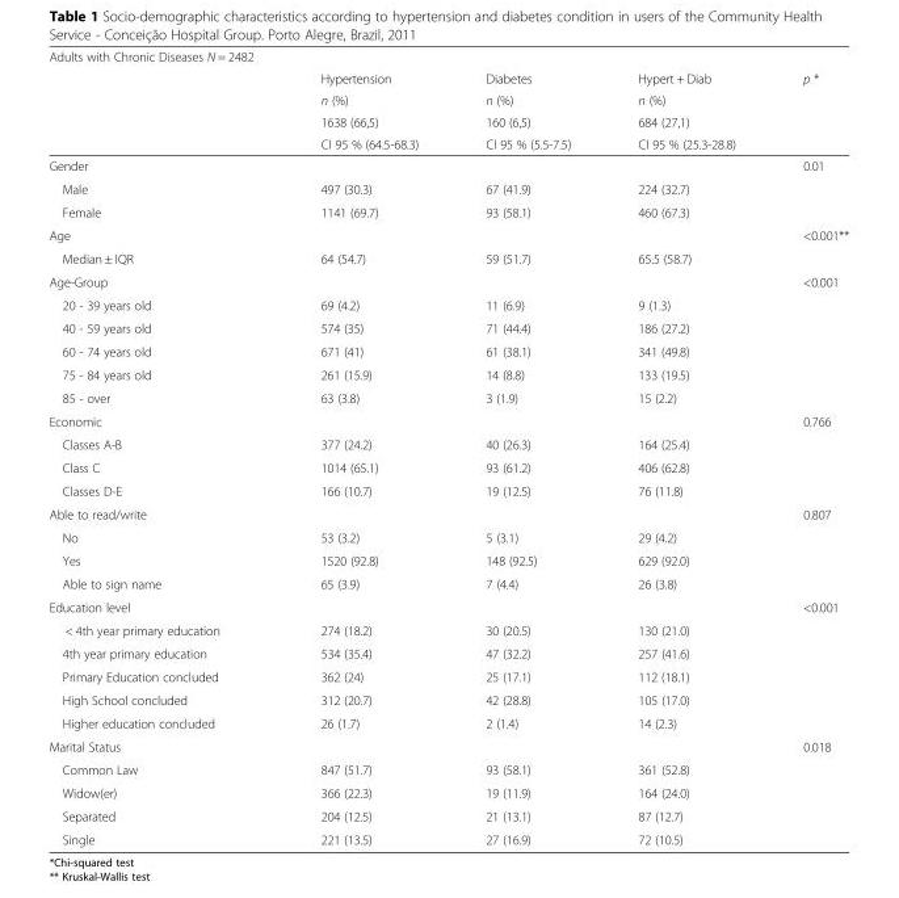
<table><thead><tr><td rowspan="5">Adults with Chronic Diseases N = 2482</td><td rowspan="5">Hypertension n (%) 1638 (66,5) CI 95 % (64.5-68.3)</td><td rowspan="5">Diabetes n (%) 160 (6,5) CI 95 % (5.5-7.5)</td><td rowspan="5">Hypert + Diab n (%) 684 (27,1) CI 95 % (25.3-28.8)</td><td rowspan="5">p *</td></tr><tr></tr><tr></tr><tr></tr><tr></tr></thead><tbody><tr><td>Gender</td><td></td><td></td><td></td><td>0.01</td></tr><tr><td>Male</td><td>497 (30.3)</td><td>67 (41.9)</td><td>224 (32.7)</td><td></td></tr><tr><td>Female</td><td>1141 (69.7)</td><td>93 (58.1)</td><td>460 (67.3)</td><td></td></tr><tr><td>Age</td><td></td><td></td><td></td><td>&lt;0.001**</td></tr><tr><td>Median ± IQR</td><td>64 (54.7)</td><td>59 (51.7)</td><td>65.5 (58.7)</td><td></td></tr><tr><td>Age-Group</td><td></td><td></td><td></td><td>&lt;0.001</td></tr><tr><td>20 - 39 years old</td><td>69 (4.2)</td><td>11 (6.9)</td><td>9 (1.3)</td><td></td></tr><tr><td>40 - 59 years old</td><td>574 (35)</td><td>71 (44.4)</td><td>186 (27.2)</td><td></td></tr><tr><td>60 - 74 years old</td><td>671 (41)</td><td>61 (38.1)</td><td>341 (49.8)</td><td></td></tr><tr><td>75 - 84 years old</td><td>261 (15.9)</td><td>14 (8.8)</td><td>133 (19.5)</td><td></td></tr><tr><td>85 - over</td><td>63 (3.8)</td><td>3 (1.9)</td><td>15 (2.2)</td><td></td></tr><tr><td>Economic</td><td></td><td></td><td></td><td>0.766</td></tr><tr><td>Classes A-B</td><td>377 (24.2)</td><td>40 (26.3)</td><td>164 (25.4)</td><td></td></tr><tr><td>Class C</td><td>1014 (65.1)</td><td>93 (61.2)</td><td>406 (62.8)</td><td></td></tr><tr><td>Classes D-E</td><td>166 (10.7)</td><td>19 (12.5)</td><td>76 (11.8)</td><td></td></tr><tr><td>Able to read/write</td><td></td><td></td><td></td><td>0.807</td></tr><tr><td>No</td><td>53 (3.2)</td><td>5 (3.1)</td><td>29 (4.2)</td><td></td></tr><tr><td>Yes</td><td>1520 (92.8)</td><td>148 (92.5)</td><td>629 (92.0)</td><td></td></tr><tr><td>Able to sign name</td><td>65 (3.9)</td><td>7 (4.4)</td><td>26 (3.8)</td><td></td></tr><tr><td>Education level</td><td></td><td></td><td></td><td>&lt;0.001</td></tr><tr><td>&lt; 4th year primary education</td><td>274 (18.2)</td><td>30 (20.5)</td><td>130 (21.0)</td><td></td></tr><tr><td>4th year primary education</td><td>534 (35.4)</td><td>47 (32.2)</td><td>257 (41.6)</td><td></td></tr><tr><td>Primary Education concluded</td><td>362 (24)</td><td>25 (17.1)</td><td>112 (18.1)</td><td></td></tr><tr><td>High School concluded</td><td>312 (20.7)</td><td>42 (28.8)</td><td>105 (17.0)</td><td></td></tr><tr><td>Higher education concluded</td><td>26 (1.7)</td><td>2 (1.4)</td><td>14 (2.3)</td><td></td></tr><tr><td>Marital Status</td><td></td><td></td><td></td><td>0.018</td></tr><tr><td>Common Law</td><td>847 (51.7)</td><td>93 (58.1)</td><td>361 (52.8)</td><td></td></tr><tr><td>Widow(er)</td><td>366 (22.3)</td><td>19 (11.9)</td><td>164 (24.0)</td><td></td></tr><tr><td>Separated</td><td>204 (12.5)</td><td>21 (13.1)</td><td>87 (12.7)</td><td></td></tr><tr><td>Single</td><td>221 (13.5)</td><td>27 (16.9)</td><td>72 (10.5)</td><td></td></tr></tbody></table>